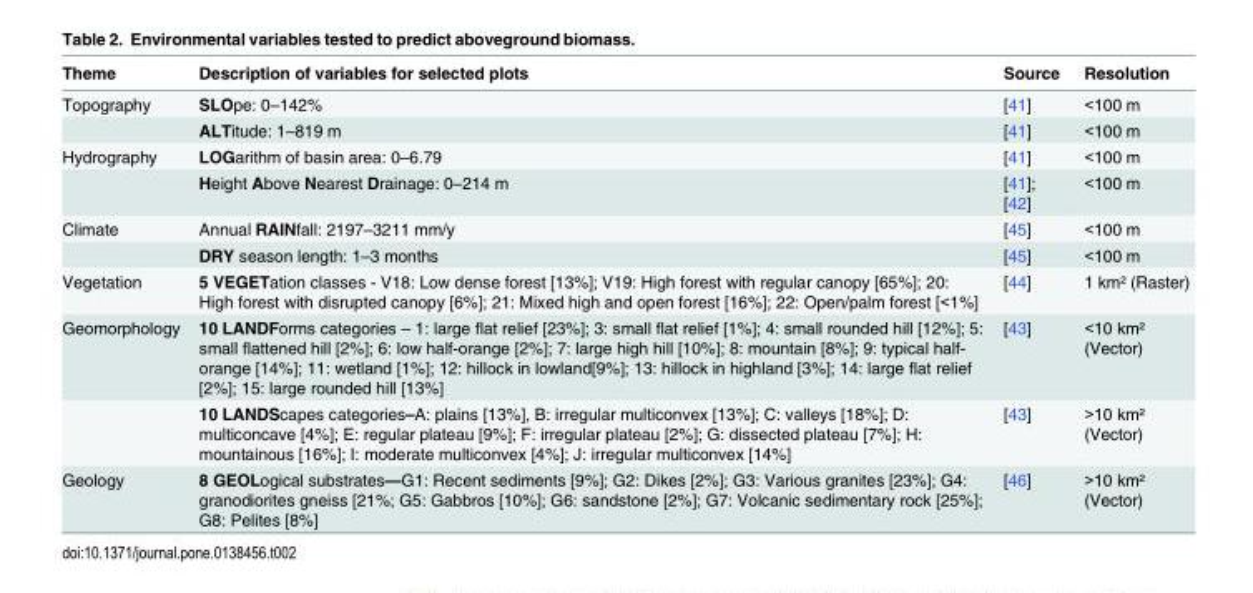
<table><thead><tr><td>Theme</td><td>Description of variables for selected plots</td><td>Source</td><td>Resolution</td></tr></thead><tbody><tr><td rowspan="2">Topography</td><td>SLOpe: 0–142%</td><td>[41]</td><td>&lt;100 m</td></tr><tr><td>ALTitude: 1–819 m</td><td>[41]</td><td>&lt;100 m</td></tr><tr><td rowspan="2">Hydrography</td><td>LOGarithm of basin area: 0–6.79</td><td>[41]</td><td>&lt;100 m</td></tr><tr><td>Height Above Nearest Drainage: 0–214 m</td><td>[41]; [42]</td><td>&lt;100 m</td></tr><tr><td rowspan="2">Climate</td><td>Annual RAINfall: 2197–3211 mm/y</td><td>[45]</td><td>&lt;100 m</td></tr><tr><td>DRY season length: 1–3 months</td><td>[45]</td><td>&lt;100 m</td></tr><tr><td>Vegetation</td><td>5 VEGETation classes - V18: Low dense forest [13%]; V19: High forest with regular canopy [65%]; 20: High forest with disrupted canopy [6%]; 21: Mixed high and open forest [16%]; 22: Open/palm forest [&lt;1%]</td><td>[44]</td><td>1 km² (Raster)</td></tr><tr><td rowspan="2">Geomorphology</td><td>10 LANDForms categories – 1: large flat relief [23%]; 3: small flat relief [1%]; 4: small rounded hill [12%]; 5: small flattened hill [2%]; 6: low half-orange [2%]; 7: large high hill [10%]; 8: mountain [8%]; 9: typical half- orange [14%]; 11: wetland [1%]; 12: hillock in lowland[9%]; 13: hillock in highland [3%]; 14: large flat relief [2%]; 15: large rounded hill [13%]</td><td>[43]</td><td>&lt;10 km² (Vector)</td></tr><tr><td>10 LANDScapes categories–A: plains [13%], B: irregular multiconvex [13%]; C: valleys [18%]; D: multiconcave [4%]; E: regular plateau [9%]; F: irregular plateau [2%]; G: dissected plateau [7%]; H: mountainous [16%]; I: moderate multiconvex [4%]; J: irregular multiconvex [14%]</td><td>[43]</td><td>&gt;10 km² (Vector)</td></tr><tr><td>Geology</td><td>8 GEOLogical substrates—G1: Recent sediments [9%]; G2: Dikes [2%]; G3: Various granites [23%]; G4: granodiorites gneiss [21%; G5: Gabbros [10%]; G6: sandstone [2%]; G7: Volcanic sedimentary rock [25%]; G8: Pelites [8%]</td><td>[46]</td><td>&gt;10 km² (Vector)</td></tr></tbody></table>